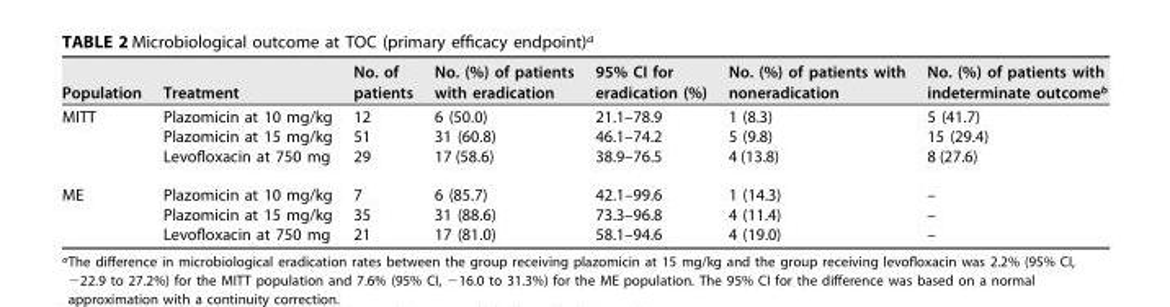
<table><thead><tr><td>Population</td><td>Treatment</td><td>No. of patients</td><td>No. (%) of patients with eradication</td><td>95% CI for eradication (%)</td><td>No. (%) of patients with noneradication</td><td>No. (%) of patients with indeterminate outcome<sup>b</sup></td></tr></thead><tbody><tr><td rowspan="3">MITT</td><td>Plazomicin at 10 mg/kg</td><td>12</td><td>6 (50.0)</td><td>21.1–78.9</td><td>1 (8.3)</td><td>5 (41.7)</td></tr><tr><td>Plazomicin at 15 mg/kg</td><td>51</td><td>31 (60.8)</td><td>46.1–74.2</td><td>5 (9.8)</td><td>15 (29.4)</td></tr><tr><td>Levofloxacin at 750 mg</td><td>29</td><td>17 (58.6)</td><td>38.9–76.5</td><td>4 (13.8)</td><td>8 (27.6)</td></tr><tr><td rowspan="3">ME</td><td>Plazomicin at 10 mg/kg</td><td>7</td><td>6 (85.7)</td><td>42.1–99.6</td><td>1 (14.3)</td><td>–</td></tr><tr><td>Plazomicin at 15 mg/kg</td><td>35</td><td>31 (88.6)</td><td>73.3–96.8</td><td>4 (11.4)</td><td>–</td></tr><tr><td>Levofloxacin at 750 mg</td><td>21</td><td>17 (81.0)</td><td>58.1–94.6</td><td>4 (19.0)</td><td>–</td></tr></tbody></table>